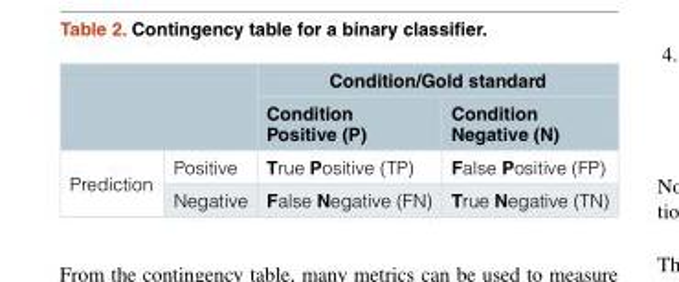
<table><thead><tr><td rowspan="2"></td><td rowspan="2"></td><td colspan="2">Condition/Gold standard</td></tr><tr><td>Condition Positive (P)</td><td>Condition Negative (N)</td></tr></thead><tbody><tr><td rowspan="2">Prediction</td><td>Positive</td><td>True Positive (TP)</td><td>False Positive (FP)</td></tr><tr><td>Negative</td><td>False Negative (FN)</td><td>True Negative (TN)</td></tr></tbody></table>